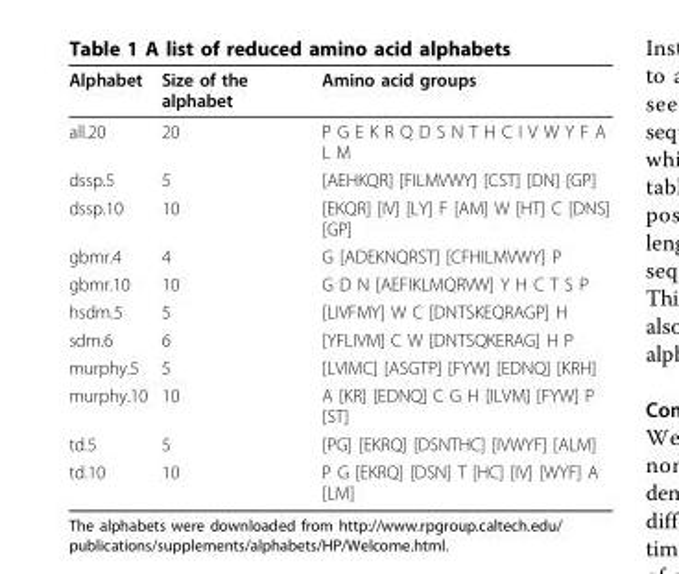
<table><thead><tr><td>Alphabet</td><td>Size of the alphabet</td><td>Amino acid groups</td></tr></thead><tbody><tr><td>all.20</td><td>20</td><td>P G E K R Q D S N T H C I V W Y F A L M</td></tr><tr><td>dssp.5</td><td>5</td><td>[AEHKQR] [FILMVWY] [CST] [DN] [GP]</td></tr><tr><td>dssp.10</td><td>10</td><td>[EKQR] [IV] [LY] F [AM] W [HT] C [DNS] [GP]</td></tr><tr><td>gbmr.4</td><td>4</td><td>G [ADEKNQRST] [CFHILMVWY] P</td></tr><tr><td>gbmr.10</td><td>10</td><td>G D N [AEFIKLMQRVW] Y H C T S P</td></tr><tr><td>hsdm.5</td><td>5</td><td>[LIVFMY] W C [DNTSKEQRAGP] H</td></tr><tr><td>sdm.6</td><td>6</td><td>[YFLIVM] C W [DNTSQKERAG] H P</td></tr><tr><td>murphy.5</td><td>5</td><td>[LVIMC] [ASGTP] [FYW] [EDNQ] [KRH]</td></tr><tr><td>murphy.10</td><td>10</td><td>A [KR] [EDNQ] C G H [ILVM] [FYW] P [ST]</td></tr><tr><td>td.5</td><td>5</td><td>[PG] [EKRQ] [DSNTHC] [IVWYF] [ALM]</td></tr><tr><td>td.10</td><td>10</td><td>P G [EKRQ] [DSN] T [HC] [IV] [WYF] A [LM]</td></tr></tbody></table>